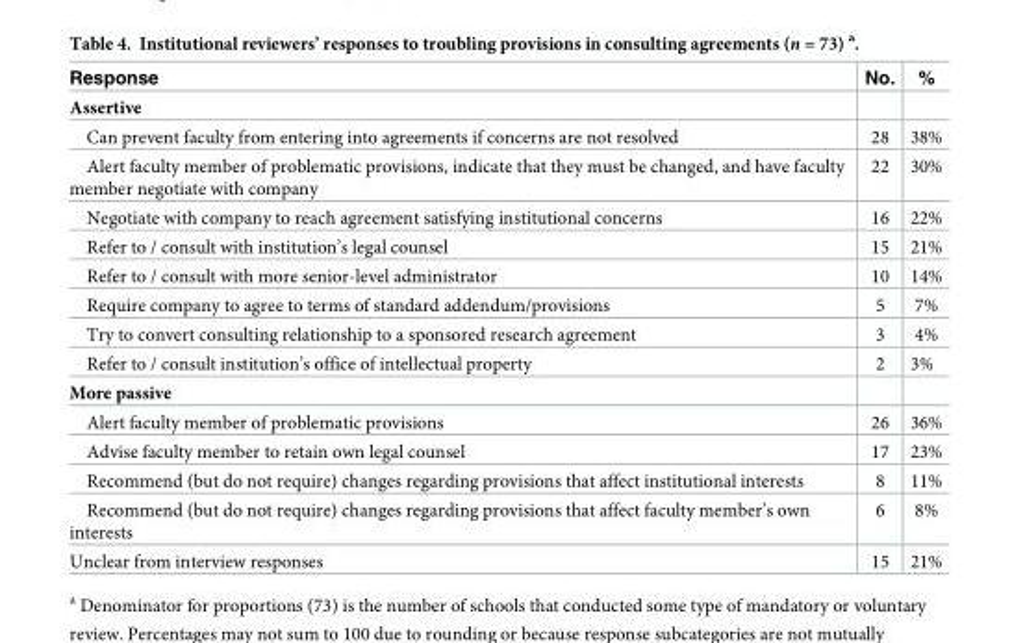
<table><thead><tr><td>Response</td><td>No.</td><td>%</td></tr></thead><tbody><tr><td colspan="3">Assertive</td></tr><tr><td>Can prevent faculty from entering into agreements if concerns are not resolved</td><td>28</td><td>38%</td></tr><tr><td>Alert faculty member of problematic provisions, indicate that they must be changed, and have faculty member negotiate with company</td><td>22</td><td>30%</td></tr><tr><td>Negotiate with company to reach agreement satisfying institutional concerns</td><td>16</td><td>22%</td></tr><tr><td>Refer to / consult with institution’s legal counsel</td><td>15</td><td>21%</td></tr><tr><td>Refer to / consult with more senior-level administrator</td><td>10</td><td>14%</td></tr><tr><td>Require company to agree to terms of standard addendum/provisions</td><td>5</td><td>7%</td></tr><tr><td>Try to convert consulting relationship to a sponsored research agreement</td><td>3</td><td>4%</td></tr><tr><td>Refer to / consult institution’s office of intellectual property</td><td>2</td><td>3%</td></tr><tr><td colspan="3">More passive</td></tr><tr><td>Alert faculty member of problematic provisions</td><td>26</td><td>36%</td></tr><tr><td>Advise faculty member to retain own legal counsel</td><td>17</td><td>23%</td></tr><tr><td>Recommend (but do not require) changes regarding provisions that affect institutional interests</td><td>8</td><td>11%</td></tr><tr><td>Recommend (but do not require) changes regarding provisions that affect faculty member’s own interests</td><td>6</td><td>8%</td></tr><tr><td>Unclear from interview responses</td><td>15</td><td>21%</td></tr></tbody></table>